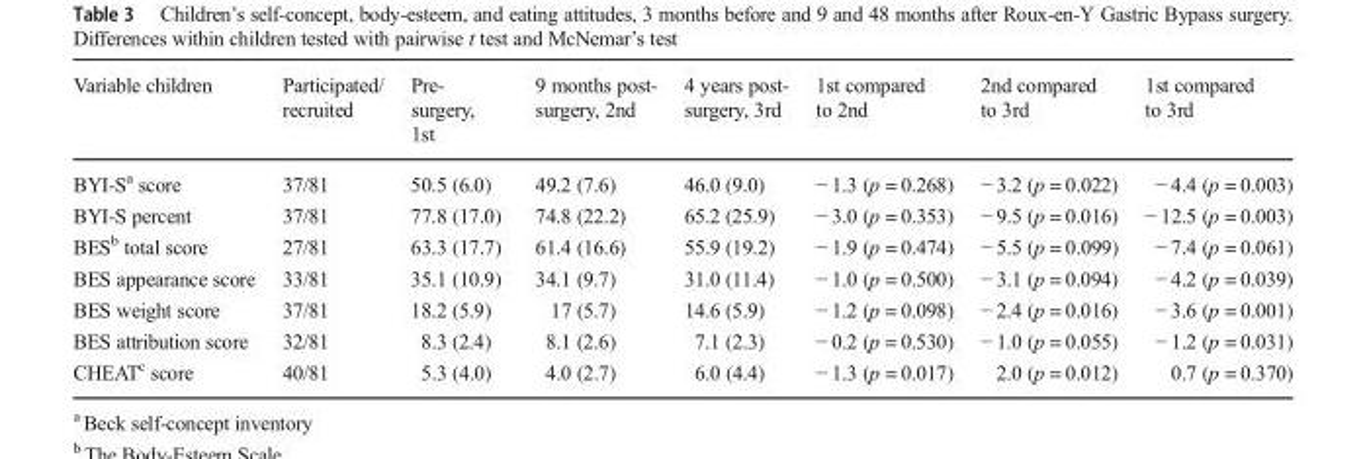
<table><thead><tr><td>Variable children</td><td>Participated/ recruited</td><td>Pre- surgery, 1st</td><td>9 months post- surgery, 2nd</td><td>4 years post- surgery, 3rd</td><td>1st compared to 2nd</td><td>2nd compared to 3rd</td><td>1st compared to 3rd</td></tr></thead><tbody><tr><td>BYI-S<sup>a</sup> score</td><td>37/81</td><td>50.5 (6.0)</td><td>49.2 (7.6)</td><td>46.0 (9.0)</td><td>− 1.3 (p = 0.268)</td><td>− 3.2 (p = 0.022)</td><td>− 4.4 (p = 0.003)</td></tr><tr><td>BYI-S percent</td><td>37/81</td><td>77.8 (17.0)</td><td>74.8 (22.2)</td><td>65.2 (25.9)</td><td>− 3.0 (p = 0.353)</td><td>− 9.5 (p = 0.016)</td><td>− 12.5 (p = 0.003)</td></tr><tr><td>BES<sup>b</sup> total score</td><td>27/81</td><td>63.3 (17.7)</td><td>61.4 (16.6)</td><td>55.9 (19.2)</td><td>− 1.9 (p = 0.474)</td><td>− 5.5 (p = 0.099)</td><td>− 7.4 (p = 0.061)</td></tr><tr><td>BES appearance score</td><td>33/81</td><td>35.1 (10.9)</td><td>34.1 (9.7)</td><td>31.0 (11.4)</td><td>− 1.0 (p = 0.500)</td><td>− 3.1 (p = 0.094)</td><td>− 4.2 (p = 0.039)</td></tr><tr><td>BES weight score</td><td>37/81</td><td>18.2 (5.9)</td><td>17 (5.7)</td><td>14.6 (5.9)</td><td>− 1.2 (p = 0.098)</td><td>− 2.4 (p = 0.016)</td><td>− 3.6 (p = 0.001)</td></tr><tr><td>BES attribution score</td><td>32/81</td><td>8.3 (2.4)</td><td>8.1 (2.6)</td><td>7.1 (2.3)</td><td>− 0.2 (p = 0.530)</td><td>− 1.0 (p = 0.055)</td><td>− 1.2 (p = 0.031)</td></tr><tr><td>CHEAT<sup>c</sup> score</td><td>40/81</td><td>5.3 (4.0)</td><td>4.0 (2.7)</td><td>6.0 (4.4)</td><td>− 1.3 (p = 0.017)</td><td>2.0 (p = 0.012)</td><td>0.7 (p = 0.370)</td></tr></tbody></table>